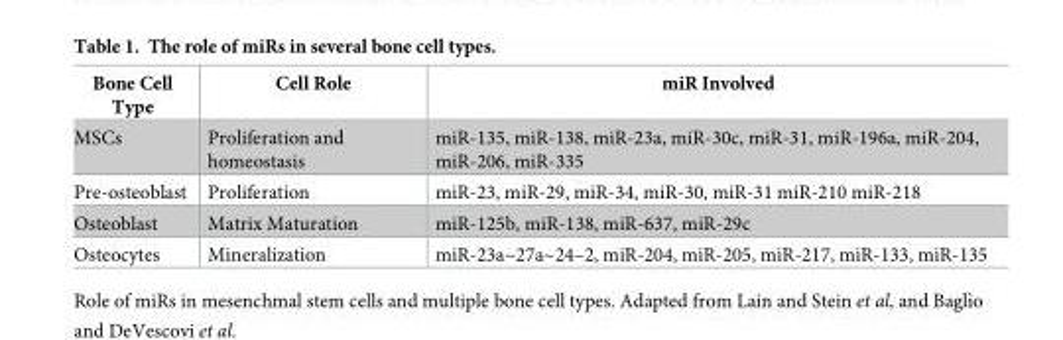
<table><thead><tr><td>Bone Cell Type</td><td>Cell Role</td><td>miR Involved</td></tr></thead><tbody><tr><td>MSCs</td><td>Proliferation and homeostasis</td><td>miR-135, miR-138, miR-23a, miR-30c, miR-31, miR-196a, miR-204, miR-206, miR-335</td></tr><tr><td>Pre-osteoblast</td><td>Proliferation</td><td>miR-23, miR-29, miR-34, miR-30, miR-31 miR-210 miR-218</td></tr><tr><td>Osteoblast</td><td>Matrix Maturation</td><td>miR-125b, miR-138, miR-637, miR-29c</td></tr><tr><td>Osteocytes</td><td>Mineralization</td><td>miR-23a~27a~24–2, miR-204, miR-205, miR-217, miR-133, miR-135</td></tr></tbody></table>